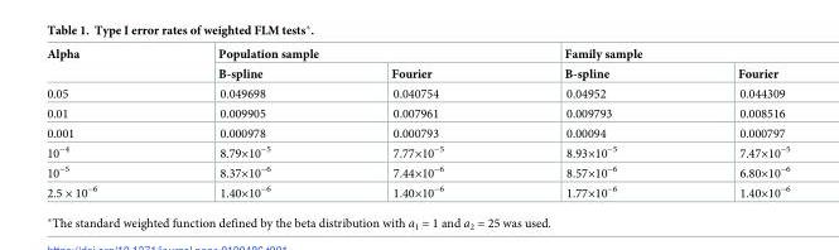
<table><thead><tr><td rowspan="2">Alpha</td><td colspan="2">Population sample</td><td colspan="2">Family sample</td></tr><tr><td>B-spline</td><td>Fourier</td><td>B-spline</td><td>Fourier</td></tr></thead><tbody><tr><td>0.05</td><td>0.049698</td><td>0.040754</td><td>0.04952</td><td>0.044309</td></tr><tr><td>0.01</td><td>0.009905</td><td>0.007961</td><td>0.009793</td><td>0.008516</td></tr><tr><td>0.001</td><td>0.000978</td><td>0.000793</td><td>0.00094</td><td>0.000797</td></tr><tr><td>10<sup>−4</sup></td><td>8.79×10<sup>−5</sup></td><td>7.77×10<sup>−5</sup></td><td>8.93×10<sup>−5</sup></td><td>7.47×10<sup>−5</sup></td></tr><tr><td>10<sup>−5</sup></td><td>8.37×10<sup>−6</sup></td><td>7.44×10<sup>−6</sup></td><td>8.57×10<sup>−6</sup></td><td>6.80×10<sup>−6</sup></td></tr><tr><td>2.5 × 10<sup>−6</sup></td><td>1.40×10<sup>−6</sup></td><td>1.40×10<sup>−6</sup></td><td>1.77×10<sup>−6</sup></td><td>1.40×10<sup>−6</sup></td></tr></tbody></table>